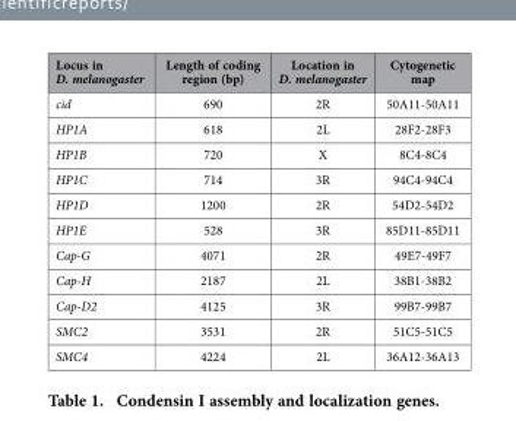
<table><thead><tr><td>Locus in D. melanogaster</td><td>Length of coding region (bp)</td><td>Location in D. melanogaster</td><td>Cytogenetic map</td></tr></thead><tbody><tr><td>cid</td><td>690</td><td>2R</td><td>50A11-50A11</td></tr><tr><td>HP1A</td><td>618</td><td>2L</td><td>28F2-28F3</td></tr><tr><td>HP1B</td><td>720</td><td>X</td><td>8C4-8C4</td></tr><tr><td>HP1C</td><td>714</td><td>3R</td><td>94C4-94C4</td></tr><tr><td>HP1D</td><td>1200</td><td>2R</td><td>54D2-54D2</td></tr><tr><td>HP1E</td><td>528</td><td>3R</td><td>85D11-85D11</td></tr><tr><td>Cap-G</td><td>4071</td><td>2R</td><td>49E7-49F7</td></tr><tr><td>Cap-H</td><td>2187</td><td>2L</td><td>38B1-38B2</td></tr><tr><td>Cap-D2</td><td>4125</td><td>3R</td><td>99B7-99B7</td></tr><tr><td>SMC2</td><td>3531</td><td>2R</td><td>51C5-51C5</td></tr><tr><td>SMC4</td><td>4224</td><td>2L</td><td>36A12-36A13</td></tr></tbody></table>